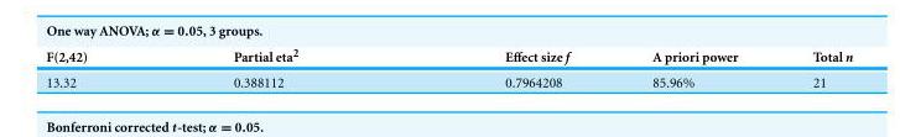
<table><thead><tr><td>F(2,42)</td><td>Partial eta<sup>2</sup></td><td>Effect size f</td><td>A priori power</td><td>Total n</td></tr></thead><tbody><tr><td>13.32</td><td>0.388112</td><td>0.7964208</td><td>85.96%</td><td>21</td></tr></tbody></table>